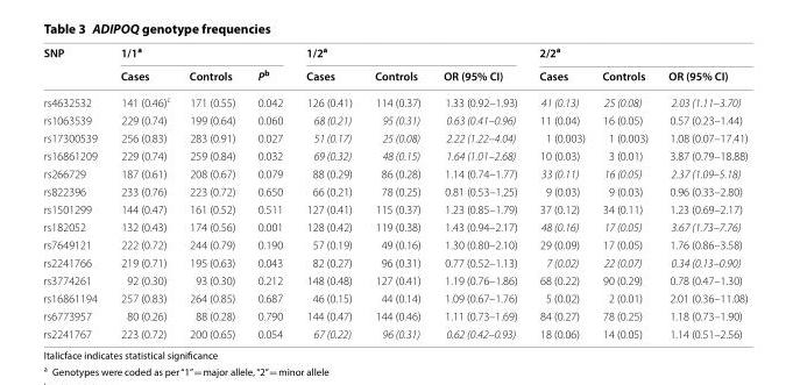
<table><thead><tr><td rowspan="2">SNP</td><td colspan="3">1/1<sup>a</sup></td><td colspan="3">1/2<sup>a</sup></td><td colspan="3">2/2<sup>a</sup></td></tr><tr><td>Cases</td><td>Controls</td><td>P<sup>b</sup></td><td>Cases</td><td>Controls</td><td>OR (95% CI)</td><td>Cases</td><td>Controls</td><td>OR (95% CI)</td></tr></thead><tbody><tr><td>rs4632532</td><td>141 (0.46)<sup>c</sup></td><td>171 (0.55)</td><td>0.042</td><td>126 (0.41)</td><td>114 (0.37)</td><td>1.33 (0.92–1.93)</td><td>41 (0.13)</td><td>25 (0.08)</td><td>2.03 (1.11–3.70)</td></tr><tr><td>rs1063539</td><td>229 (0.74)</td><td>199 (0.64)</td><td>0.060</td><td>68 (0.21)</td><td>95 (0.31)</td><td>0.63 (0.41–0.96)</td><td>11 (0.04)</td><td>16 (0.05)</td><td>0.57 (0.23–1.44)</td></tr><tr><td>rs17300539</td><td>256 (0.83)</td><td>283 (0.91)</td><td>0.027</td><td>51 (0.17)</td><td>25 (0.08)</td><td>2.22 (1.22–4.04)</td><td>1 (0.003)</td><td>1 (0.003)</td><td>1.08 (0.07–17.41)</td></tr><tr><td>rs16861209</td><td>229 (0.74)</td><td>259 (0.84)</td><td>0.032</td><td>69 (0.32)</td><td>48 (0.15)</td><td>1.64 (1.01–2.68)</td><td>10 (0.03)</td><td>3 (0.01)</td><td>3.87 (0.79–18.88)</td></tr><tr><td>rs266729</td><td>187 (0.61)</td><td>208 (0.67)</td><td>0.079</td><td>88 (0.29)</td><td>86 (0.28)</td><td>1.14 (0.74–1.77)</td><td>33 (0.11)</td><td>16 (0.05)</td><td>2.37 (1.09–5.18)</td></tr><tr><td>rs822396</td><td>233 (0.76)</td><td>223 (0.72)</td><td>0.650</td><td>66 (0.21)</td><td>78 (0.25)</td><td>0.81 (0.53–1.25)</td><td>9 (0.03)</td><td>9 (0.03)</td><td>0.96 (0.33–2.80)</td></tr><tr><td>rs1501299</td><td>144 (0.47)</td><td>161 (0.52)</td><td>0.511</td><td>127 (0.41)</td><td>115 (0.37)</td><td>1.23 (0.85–1.79)</td><td>37 (0.12)</td><td>34 (0.11)</td><td>1.23 (0.69–2.17)</td></tr><tr><td>rs182052</td><td>132 (0.43)</td><td>174 (0.56)</td><td>0.001</td><td>128 (0.42)</td><td>119 (0.38)</td><td>1.43 (0.94–2.17)</td><td>48 (0.16)</td><td>17 (0.05)</td><td>3.67 (1.73–7.76)</td></tr><tr><td>rs7649121</td><td>222 (0.72)</td><td>244 (0.79)</td><td>0.190</td><td>57 (0.19)</td><td>49 (0.16)</td><td>1.30 (0.80–2.10)</td><td>29 (0.09)</td><td>17 (0.05)</td><td>1.76 (0.86–3.58)</td></tr><tr><td>rs2241766</td><td>219 (0.71)</td><td>195 (0.63)</td><td>0.043</td><td>82 (0.27)</td><td>96 (0.31)</td><td>0.77 (0.52–1.13)</td><td>7 (0.02)</td><td>22 (0.07)</td><td>0.34 (0.13–0.90)</td></tr><tr><td>rs3774261</td><td>92 (0.30)</td><td>93 (0.30)</td><td>0.212</td><td>148 (0.48)</td><td>127 (0.41)</td><td>1.19 (0.76–1.86)</td><td>68 (0.22)</td><td>90 (0.29)</td><td>0.78 (0.47–1.30)</td></tr><tr><td>rs16861194</td><td>257 (0.83)</td><td>264 (0.85)</td><td>0.687</td><td>46 (0.15)</td><td>44 (0.14)</td><td>1.09 (0.67–1.76)</td><td>5 (0.02)</td><td>2 (0.01)</td><td>2.01 (0.36–11.08)</td></tr><tr><td>rs6773957</td><td>80 (0.26)</td><td>88 (0.28)</td><td>0.790</td><td>144 (0.47)</td><td>144 (0.46)</td><td>1.11 (0.73–1.69)</td><td>84 (0.27)</td><td>78 (0.25)</td><td>1.18 (0.73–1.90)</td></tr><tr><td>rs2241767</td><td>223 (0.72)</td><td>200 (0.65)</td><td>0.054</td><td>67 (0.22)</td><td>96 (0.31)</td><td>0.62 (0.42–0.93)</td><td>18 (0.06)</td><td>14 (0.05)</td><td>1.14 (0.51–2.56)</td></tr></tbody></table>